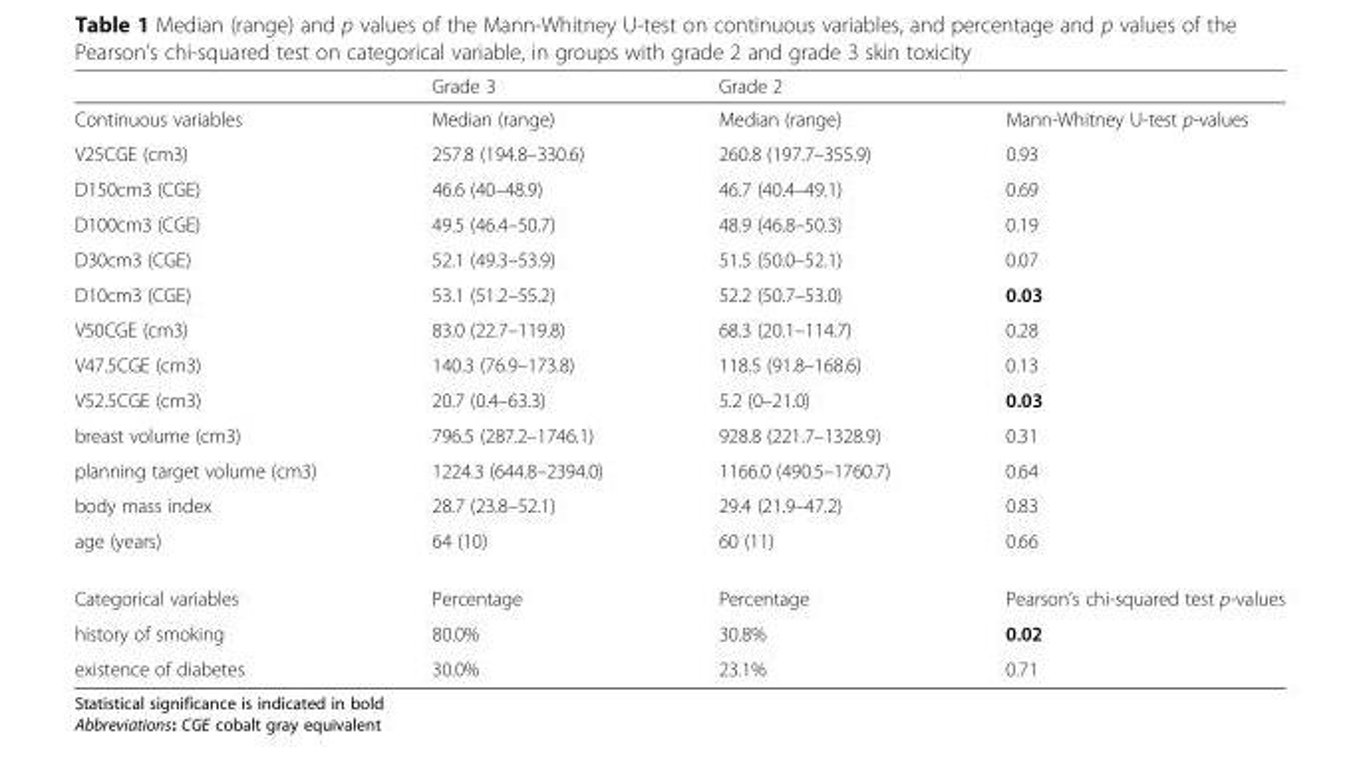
<table><thead><tr><td></td><td>Grade 3</td><td>Grade 2</td><td></td></tr></thead><tbody><tr><td>Continuous variables</td><td>Median (range)</td><td>Median (range)</td><td>Mann-Whitney U-test p-values</td></tr><tr><td>V25CGE (cm3)</td><td>257.8 (194.8–330.6)</td><td>260.8 (197.7–355.9)</td><td>0.93</td></tr><tr><td>D150cm3 (CGE)</td><td>46.6 (40–48.9)</td><td>46.7 (40.4–49.1)</td><td>0.69</td></tr><tr><td>D100cm3 (CGE)</td><td>49.5 (46.4–50.7)</td><td>48.9 (46.8–50.3)</td><td>0.19</td></tr><tr><td>D30cm3 (CGE)</td><td>52.1 (49.3–53.9)</td><td>51.5 (50.0–52.1)</td><td>0.07</td></tr><tr><td>D10cm3 (CGE)</td><td>53.1 (51.2–55.2)</td><td>52.2 (50.7–53.0)</td><td>0.03</td></tr><tr><td>V50CGE (cm3)</td><td>83.0 (22.7–119.8)</td><td>68.3 (20.1–114.7)</td><td>0.28</td></tr><tr><td>V47.5CGE (cm3)</td><td>140.3 (76.9–173.8)</td><td>118.5 (91.8–168.6)</td><td>0.13</td></tr><tr><td>V52.5CGE (cm3)</td><td>20.7 (0.4–63.3)</td><td>5.2 (0–21.0)</td><td>0.03</td></tr><tr><td>breast volume (cm3)</td><td>796.5 (287.2–1746.1)</td><td>928.8 (221.7–1328.9)</td><td>0.31</td></tr><tr><td>planning target volume (cm3)</td><td>1224.3 (644.8–2394.0)</td><td>1166.0 (490.5–1760.7)</td><td>0.64</td></tr><tr><td>body mass index</td><td>28.7 (23.8–52.1)</td><td>29.4 (21.9–47.2)</td><td>0.83</td></tr><tr><td>age (years)</td><td>64 (10)</td><td>60 (11)</td><td>0.66</td></tr><tr><td>Categorical variables</td><td>Percentage</td><td>Percentage</td><td>Pearson’s chi-squared test p-values</td></tr><tr><td>history of smoking</td><td>80.0%</td><td>30.8%</td><td>0.02</td></tr><tr><td>existence of diabetes</td><td>30.0%</td><td>23.1%</td><td>0.71</td></tr></tbody></table>